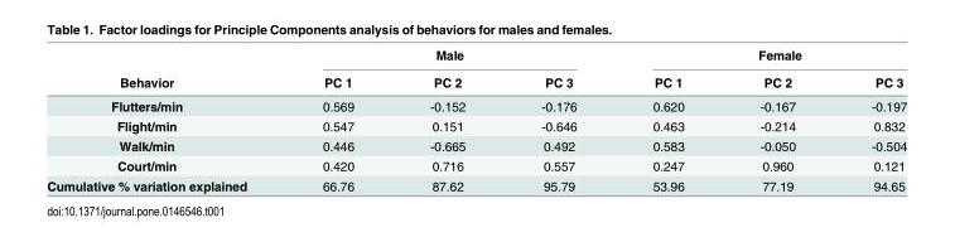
<table><thead><tr><td rowspan="2">Behavior</td><td colspan="3">Male</td><td colspan="3">Female</td></tr><tr><td>PC 1</td><td>PC 2</td><td>PC 3</td><td>PC 1</td><td>PC 2</td><td>PC 3</td></tr></thead><tbody><tr><td>Flutters/min</td><td>0.569</td><td>-0.152</td><td>-0.176</td><td>0.620</td><td>-0.167</td><td>-0.197</td></tr><tr><td>Flight/min</td><td>0.547</td><td>0.151</td><td>-0.646</td><td>0.463</td><td>-0.214</td><td>0.832</td></tr><tr><td>Walk/min</td><td>0.446</td><td>-0.665</td><td>0.492</td><td>0.583</td><td>-0.050</td><td>-0.504</td></tr><tr><td>Court/min</td><td>0.420</td><td>0.716</td><td>0.557</td><td>0.247</td><td>0.960</td><td>0.121</td></tr><tr><td>Cumulative % variation explained</td><td>66.76</td><td>87.62</td><td>95.79</td><td>53.96</td><td>77.19</td><td>94.65</td></tr></tbody></table>